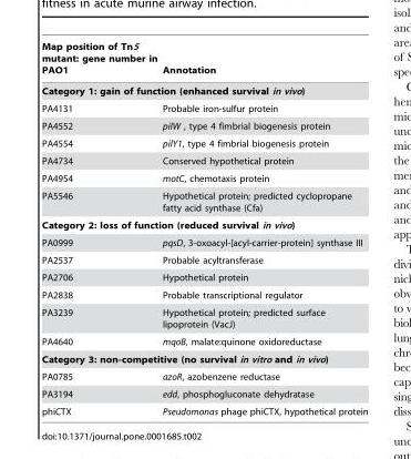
<table><thead><tr><td>Map position of Tn5 mutant: gene number in PAO1</td><td>Annotation</td></tr></thead><tbody><tr><td colspan="2">Category 1: gain of function (enhanced survival in vivo)</td></tr><tr><td>PA4131</td><td>Probable iron-sulfur protein</td></tr><tr><td>PA4552</td><td>pilW , type 4 fimbrial biogenesis protein</td></tr><tr><td>PA4554</td><td>pilY1, type 4 fimbrial biogenesis protein</td></tr><tr><td>PA4734</td><td>Conserved hypothetical protein</td></tr><tr><td>PA4954</td><td>motC, chemotaxis protein</td></tr><tr><td>PA5546</td><td>Hypothetical protein; predicted cyclopropane fatty acid synthase (Cfa)</td></tr><tr><td colspan="2">Category 2: loss of function (reduced survival in vivo)</td></tr><tr><td>PA0999</td><td>pqsD, 3-oxoacyl-[acyl-carrier-protein] synthase III</td></tr><tr><td>PA2537</td><td>Probable acyltransferase</td></tr><tr><td>PA2706</td><td>Hypothetical protein</td></tr><tr><td>PA2838</td><td>Probable transcriptional regulator</td></tr><tr><td>PA3239</td><td>Hypothetical protein; predicted surface lipoprotein (VacJ)</td></tr><tr><td>PA4640</td><td>mqoB, malate:quinone oxidoreductase</td></tr><tr><td colspan="2">Category 3: non-competitive (no survival in vitro and in vivo)</td></tr><tr><td>PA0785</td><td>azoR, azobenzene reductase</td></tr><tr><td>PA3194</td><td>edd, phosphogluconate dehydratase</td></tr><tr><td>phiCTX</td><td>Pseudomonas phage phiCTX, hypothetical protein</td></tr></tbody></table>